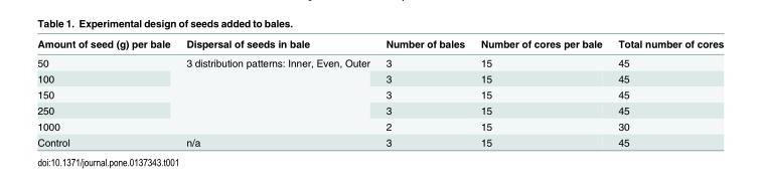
<table><thead><tr><td>Amount of seed (g) per bale</td><td>Dispersal of seeds in bale</td><td>Number of bales</td><td>Number of cores per bale</td><td>Total number of cores</td></tr></thead><tbody><tr><td>50</td><td rowspan="5">3 distribution patterns: Inner, Even, Outer</td><td>3</td><td>15</td><td>45</td></tr><tr><td>100</td><td>3</td><td>15</td><td>45</td></tr><tr><td>150</td><td>3</td><td>15</td><td>45</td></tr><tr><td>250</td><td>3</td><td>15</td><td>45</td></tr><tr><td>1000</td><td>2</td><td>15</td><td>30</td></tr><tr><td>Control</td><td>n/a</td><td>3</td><td>15</td><td>45</td></tr></tbody></table>